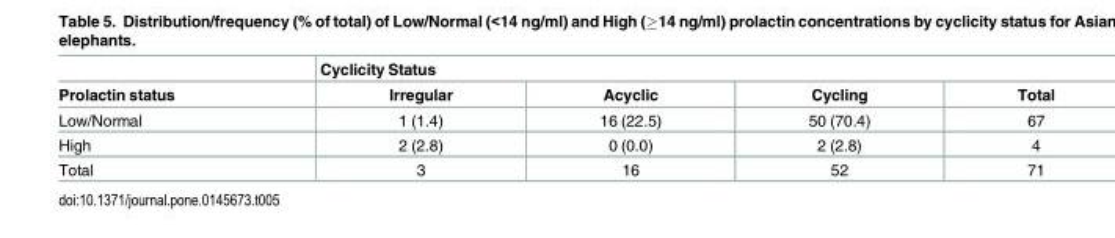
<table><thead><tr><td rowspan="2">Prolactin status</td><td colspan="4">Cyclicity Status</td></tr><tr><td>Irregular</td><td>Acyclic</td><td>Cycling</td><td>Total</td></tr></thead><tbody><tr><td>Low/Normal</td><td>1 (1.4)</td><td>16 (22.5)</td><td>50 (70.4)</td><td>67</td></tr><tr><td>High</td><td>2 (2.8)</td><td>0 (0.0)</td><td>2 (2.8)</td><td>4</td></tr><tr><td>Total</td><td>3</td><td>16</td><td>52</td><td>71</td></tr></tbody></table>